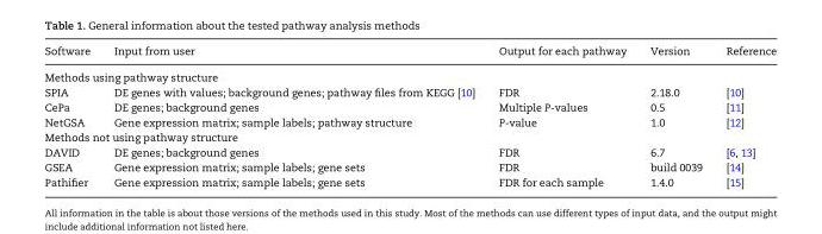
<table><thead><tr><td>Software</td><td>Input from user</td><td>Output for each pathway</td><td>Version</td><td>Reference</td></tr></thead><tbody><tr><td colspan="5">Methods using pathway structure</td></tr><tr><td>SPIA</td><td>DE genes with values; background genes; pathway files from KEGG [10]</td><td>FDR</td><td>2.18.0</td><td>[10]</td></tr><tr><td>CePa</td><td>DE genes; background genes</td><td>Multiple P-values</td><td>0.5</td><td>[11]</td></tr><tr><td>NetGSA</td><td>Gene expression matrix; sample labels; pathway structure</td><td>P-value</td><td>1.0</td><td>[12]</td></tr><tr><td colspan="5">Methods not using pathway structure</td></tr><tr><td>DAVID</td><td>DE genes; background genes</td><td>FDR</td><td>6.7</td><td>[6, 13]</td></tr><tr><td>GSEA</td><td>Gene expression matrix; sample labels; gene sets</td><td>FDR</td><td>build 0039</td><td>[14]</td></tr><tr><td>Pathifier</td><td>Gene expression matrix; sample labels; gene sets</td><td>FDR for each sample</td><td>1.4.0</td><td>[15]</td></tr></tbody></table>